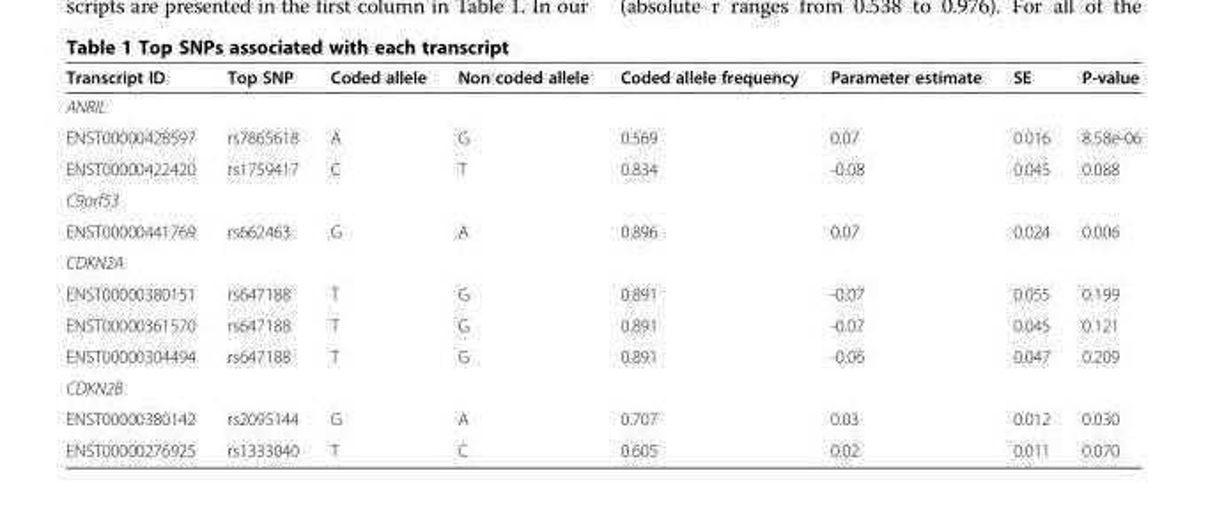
<table><thead><tr><td>Transcript ID</td><td>Top SNP</td><td>Coded allele</td><td>Non coded allele</td><td>Coded allele frequency</td><td>Parameter estimate</td><td>SE</td><td>P-value</td></tr></thead><tbody><tr><td colspan="8">ANRIL</td></tr><tr><td>ENST00000428597</td><td>rs7865618</td><td>A</td><td>G</td><td>0.569</td><td>0.07</td><td>0.016</td><td>8.58e-06</td></tr><tr><td>ENST00000422420</td><td>rs1759417</td><td>C</td><td>T</td><td>0.834</td><td>-0.08</td><td>0.045</td><td>0.088</td></tr><tr><td colspan="8">C9orf53</td></tr><tr><td>ENST00000441769</td><td>rs662463</td><td>G</td><td>A</td><td>0.896</td><td>0.07</td><td>0.024</td><td>0.006</td></tr><tr><td colspan="8">CDKN2A</td></tr><tr><td>ENST00000380151</td><td>rs647188</td><td>T</td><td>G</td><td>0.891</td><td>-0.07</td><td>0.055</td><td>0.199</td></tr><tr><td>ENST00000361570</td><td>rs647188</td><td>T</td><td>G</td><td>0.891</td><td>-0.07</td><td>0.045</td><td>0.121</td></tr><tr><td>ENST00000304494</td><td>rs647188</td><td>T</td><td>G</td><td>0.891</td><td>-0.06</td><td>0.047</td><td>0.209</td></tr><tr><td colspan="8">CDKN2B</td></tr><tr><td>ENST00000380142</td><td>rs2095144</td><td>G</td><td>A</td><td>0.707</td><td>0.03</td><td>0.012</td><td>0.030</td></tr><tr><td>ENST00000276925</td><td>rs1333040</td><td>T</td><td>C</td><td>0.605</td><td>0.02</td><td>0.011</td><td>0.070</td></tr></tbody></table>